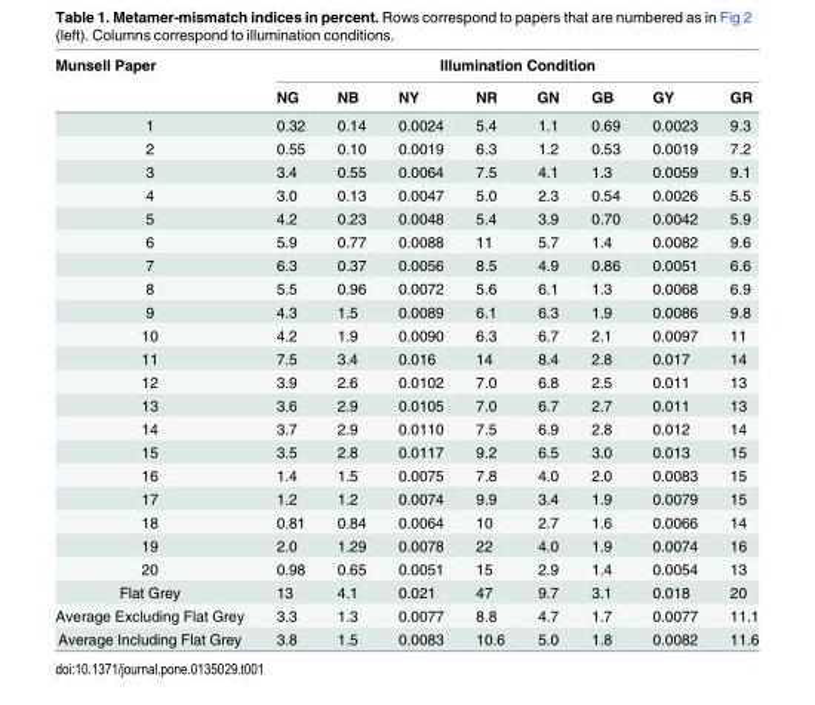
<table><thead><tr><td rowspan="2">Munsell Paper</td><td colspan="8">Illumination Condition</td></tr><tr><td>NG</td><td>NB</td><td>NY</td><td>NR</td><td>GN</td><td>GB</td><td>GY</td><td>GR</td></tr></thead><tbody><tr><td>1</td><td>0.32</td><td>0.14</td><td>0.0024</td><td>5.4</td><td>1.1</td><td>0.69</td><td>0.0023</td><td>9.3</td></tr><tr><td>2</td><td>0.55</td><td>0.10</td><td>0.0019</td><td>6.3</td><td>1.2</td><td>0.53</td><td>0.0019</td><td>7.2</td></tr><tr><td>3</td><td>3.4</td><td>0.55</td><td>0.0064</td><td>7.5</td><td>4.1</td><td>1.3</td><td>0.0059</td><td>9.1</td></tr><tr><td>4</td><td>3.0</td><td>0.13</td><td>0.0047</td><td>5.0</td><td>2.3</td><td>0.54</td><td>0.0026</td><td>5.5</td></tr><tr><td>5</td><td>4.2</td><td>0.23</td><td>0.0048</td><td>5.4</td><td>3.9</td><td>0.70</td><td>0.0042</td><td>5.9</td></tr><tr><td>6</td><td>5.9</td><td>0.77</td><td>0.0088</td><td>11</td><td>5.7</td><td>1.4</td><td>0.0082</td><td>9.6</td></tr><tr><td>7</td><td>6.3</td><td>0.37</td><td>0.0056</td><td>8.5</td><td>4.9</td><td>0.86</td><td>0.0051</td><td>6.6</td></tr><tr><td>8</td><td>5.5</td><td>0.96</td><td>0.0072</td><td>5.6</td><td>6.1</td><td>1.3</td><td>0.0068</td><td>6.9</td></tr><tr><td>9</td><td>4.3</td><td>1.5</td><td>0.0089</td><td>6.1</td><td>6.3</td><td>1.9</td><td>0.0086</td><td>9.8</td></tr><tr><td>10</td><td>4.2</td><td>1.9</td><td>0.0090</td><td>6.3</td><td>6.7</td><td>2.1</td><td>0.0097</td><td>11</td></tr><tr><td>11</td><td>7.5</td><td>3.4</td><td>0.016</td><td>14</td><td>8.4</td><td>2.8</td><td>0.017</td><td>14</td></tr><tr><td>12</td><td>3.9</td><td>2.6</td><td>0.0102</td><td>7.0</td><td>6.8</td><td>2.5</td><td>0.011</td><td>13</td></tr><tr><td>13</td><td>3.6</td><td>2.9</td><td>0.0105</td><td>7.0</td><td>6.7</td><td>2.7</td><td>0.011</td><td>13</td></tr><tr><td>14</td><td>3.7</td><td>2.9</td><td>0.0110</td><td>7.5</td><td>6.9</td><td>2.8</td><td>0.012</td><td>14</td></tr><tr><td>15</td><td>3.5</td><td>2.8</td><td>0.0117</td><td>9.2</td><td>6.5</td><td>3.0</td><td>0.013</td><td>15</td></tr><tr><td>16</td><td>1.4</td><td>1.5</td><td>0.0075</td><td>7.8</td><td>4.0</td><td>2.0</td><td>0.0083</td><td>15</td></tr><tr><td>17</td><td>1.2</td><td>1.2</td><td>0.0074</td><td>9.9</td><td>3.4</td><td>1.9</td><td>0.0079</td><td>15</td></tr><tr><td>18</td><td>0.81</td><td>0.84</td><td>0.0064</td><td>10</td><td>2.7</td><td>1.6</td><td>0.0066</td><td>14</td></tr><tr><td>19</td><td>2.0</td><td>1.29</td><td>0.0078</td><td>22</td><td>4.0</td><td>1.9</td><td>0.0074</td><td>16</td></tr><tr><td>20</td><td>0.98</td><td>0.65</td><td>0.0051</td><td>15</td><td>2.9</td><td>1.4</td><td>0.0054</td><td>13</td></tr><tr><td>Flat Grey</td><td>13</td><td>4.1</td><td>0.021</td><td>47</td><td>9.7</td><td>3.1</td><td>0.018</td><td>20</td></tr><tr><td>Average Excluding Flat Grey</td><td>3.3</td><td>1.3</td><td>0.0077</td><td>8.8</td><td>4.7</td><td>1.7</td><td>0.0077</td><td>11.1</td></tr><tr><td>Average Including Flat Grey</td><td>3.8</td><td>1.5</td><td>0.0083</td><td>10.6</td><td>5.0</td><td>1.8</td><td>0.0082</td><td>11.6</td></tr></tbody></table>